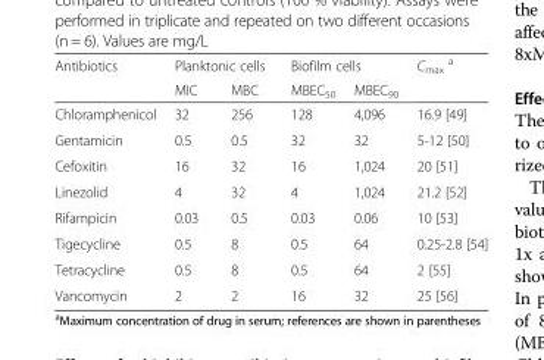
<table><thead><tr><td rowspan="2">Antibiotics</td><td colspan="2">Planktonic cells</td><td colspan="2">Biofilm cells</td><td rowspan="2">C<sub>max</sub> <sup>a</sup></td></tr><tr><td>MIC</td><td>MBC</td><td>MBEC<sub>50</sub></td><td>MBEC<sub>90</sub></td></tr></thead><tbody><tr><td>Chloramphenicol</td><td>32</td><td>256</td><td>128</td><td>4,096</td><td>16.9 [49]</td></tr><tr><td>Gentamicin</td><td>0.5</td><td>0.5</td><td>32</td><td>32</td><td>5-12 [50]</td></tr><tr><td>Cefoxitin</td><td>16</td><td>32</td><td>16</td><td>1,024</td><td>20 [51]</td></tr><tr><td>Linezolid</td><td>4</td><td>32</td><td>4</td><td>1,024</td><td>21.2 [52]</td></tr><tr><td>Rifampicin</td><td>0.03</td><td>0.5</td><td>0.03</td><td>0.06</td><td>10 [53]</td></tr><tr><td>Tigecycline</td><td>0.5</td><td>8</td><td>0.5</td><td>64</td><td>0.25-2.8 [54]</td></tr><tr><td>Tetracycline</td><td>0.5</td><td>8</td><td>0.5</td><td>64</td><td>2 [55]</td></tr><tr><td>Vancomycin</td><td>2</td><td>2</td><td>16</td><td>32</td><td>25 [56]</td></tr></tbody></table>